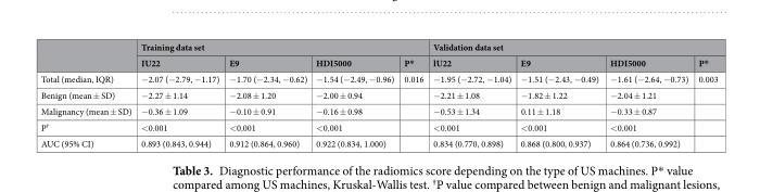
<table><thead><tr><td rowspan="2"></td><td colspan="4">Training data set</td><td colspan="4">Validation data set</td></tr><tr><td>IU22</td><td>E9</td><td>HDI5000</td><td>P*</td><td>lU22</td><td>E9</td><td>HDI5000</td><td>P*</td></tr></thead><tbody><tr><td>Total (median, IQR)</td><td>−2.07 (−2.79, −1.17)</td><td>−1.70 (−2.34, −0.62)</td><td>−1.54 (−2.49, −0.96)</td><td>0.016</td><td>−1.95 (−2.72, −1.04)</td><td>−1.51 (−2.43, −0.49)</td><td>−1.61 (−2.64, −0.73)</td><td>0.003</td></tr><tr><td>Benign (mean ± SD)</td><td>−2.27 ± 1.14</td><td>−2.08 ± 1.20</td><td>−2.00 ± 0.94</td><td></td><td>−2.21 ± 1.08</td><td>−1.82 ± 1.22</td><td>−2.04 ± 1.21</td><td></td></tr><tr><td>Malignancy (mean ± SD)</td><td>−0.36 ± 1.09</td><td>−0.10 ± 0.91</td><td>−0.16 ± 0.98</td><td></td><td>−0.53 ± 1.34</td><td>0.11 ± 1.18</td><td>−0.33 ± 0.87</td><td></td></tr><tr><td>P<sup>†</sup></td><td>&lt;0.001</td><td>&lt;0.001</td><td>&lt;0.001</td><td></td><td>&lt;0.001</td><td>&lt;0.001</td><td>&lt;0.001</td><td></td></tr><tr><td>AUC (95% CI)</td><td>0.893 (0.843, 0.944)</td><td>0.912 (0.864, 0.960)</td><td>0.922 (0.834, 1.000)</td><td></td><td>0.834 (0.770, 0.898)</td><td>0.868 (0.800, 0.937)</td><td>0.864 (0.736, 0.992)</td><td></td></tr></tbody></table>